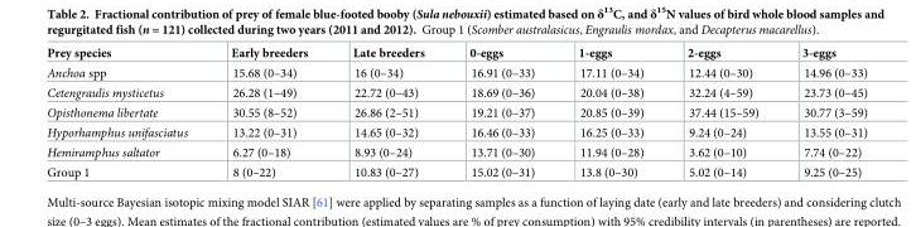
<table><thead><tr><td>Prey species</td><td>Early breeders</td><td>Late breeders</td><td>0-eggs</td><td>1-eggs</td><td>2-eggs</td><td>3-eggs</td></tr></thead><tbody><tr><td>Anchoa spp</td><td>15.68 (0–34)</td><td>16 (0–34)</td><td>16.91 (0–33)</td><td>17.11 (0–34)</td><td>12.44 (0–30)</td><td>14.96 (0–33)</td></tr><tr><td>Cetengraulis mysticetus</td><td>26.28 (1–49)</td><td>22.72 (0–43)</td><td>18.69 (0–36)</td><td>20.04 (0–38)</td><td>32.24 (4–59)</td><td>23.73 (0–45)</td></tr><tr><td>Opisthonema libertate</td><td>30.55 (8–52)</td><td>26.86 (2–51)</td><td>19.21 (0–37)</td><td>20.85 (0–39)</td><td>37.44 (15–59)</td><td>30.77 (3–59)</td></tr><tr><td>Hyporhamphus unifasciatus</td><td>13.22 (0–31)</td><td>14.65 (0–32)</td><td>16.46 (0–33)</td><td>16.25 (0–33)</td><td>9.24 (0–24)</td><td>13.55 (0–31)</td></tr><tr><td>Hemiramphus saltator</td><td>6.27 (0–18)</td><td>8.93 (0–24)</td><td>13.71 (0–30)</td><td>11.94 (0–28)</td><td>3.62 (0–10)</td><td>7.74 (0–22)</td></tr><tr><td>Group 1</td><td>8 (0–22)</td><td>10.83 (0–27)</td><td>15.02 (0–31)</td><td>13.8 (0–30)</td><td>5.02 (0–14)</td><td>9.25 (0–25)</td></tr></tbody></table>